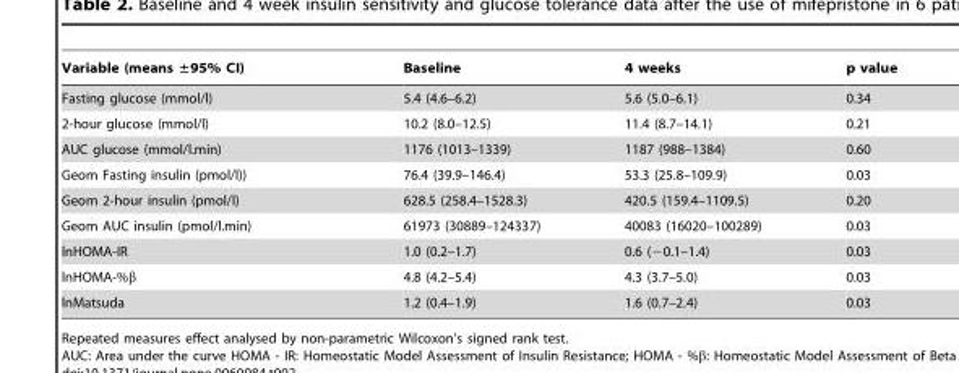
<table><thead><tr><td>Variable (means ±95% CI)</td><td>Baseline</td><td>4 weeks</td><td>p value</td></tr></thead><tbody><tr><td>Fasting glucose (mmol/l)</td><td>5.4 (4.6–6.2)</td><td>5.6 (5.0–6.1)</td><td>0.34</td></tr><tr><td>2-hour glucose (mmol/l)</td><td>10.2 (8.0–12.5)</td><td>11.4 (8.7–14.1)</td><td>0.21</td></tr><tr><td>AUC glucose (mmol/l.min)</td><td>1176 (1013–1339)</td><td>1187 (988–1384)</td><td>0.60</td></tr><tr><td>Geom Fasting insulin (pmol/l))</td><td>76.4 (39.9–146.4)</td><td>53.3 (25.8–109.9)</td><td>0.03</td></tr><tr><td>Geom 2-hour insulin (pmol/l)</td><td>628.5 (258.4–1528.3)</td><td>420.5 (159.4–1109.5)</td><td>0.20</td></tr><tr><td>Geom AUC insulin (pmol/l.min)</td><td>61973 (30889–124337)</td><td>40083 (16020–100289)</td><td>0.03</td></tr><tr><td>lnHOMA-IR</td><td>1.0 (0.2–1.7)</td><td>0.6 (−0.1–1.4)</td><td>0.03</td></tr><tr><td>lnHOMA-%β</td><td>4.8 (4.2–5.4)</td><td>4.3 (3.7–5.0)</td><td>0.03</td></tr><tr><td>lnMatsuda</td><td>1.2 (0.4–1.9)</td><td>1.6 (0.7–2.4)</td><td>0.03</td></tr></tbody></table>